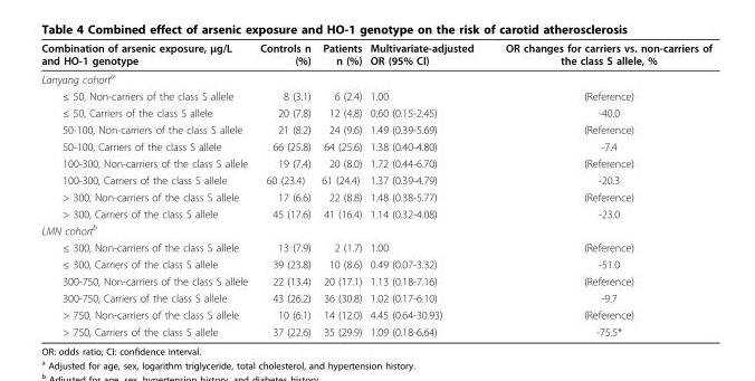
<table><thead><tr><td>Combination of arsenic exposure, μg/L and HO-1 genotype</td><td>Controls n (%)</td><td>Patients n (%)</td><td>Multivariate-adjusted OR (95% CI)</td><td>OR changes for carriers vs. non-carriers of the class S allele, %</td></tr></thead><tbody><tr><td colspan="5">Lanyang cohort<sup>a</sup></td></tr><tr><td>≤ 50, Non-carriers of the class S allele</td><td>8 (3.1)</td><td>6 (2.4)</td><td>1.00</td><td>(Reference)</td></tr><tr><td>≤ 50, Carriers of the class S allele</td><td>20 (7.8)</td><td>12 (4.8)</td><td>0.60 (0.15-2.45)</td><td>-40.0</td></tr><tr><td>50-100, Non-carriers of the class S allele</td><td>21 (8.2)</td><td>24 (9.6)</td><td>1.49 (0.39-5.69)</td><td>(Reference)</td></tr><tr><td>50-100, Carriers of the class S allele</td><td>66 (25.8)</td><td>64 (25.6)</td><td>1.38 (0.40-4.80)</td><td>-7.4</td></tr><tr><td>100-300, Non-carriers of the class S allele</td><td>19 (7.4)</td><td>20 (8.0)</td><td>1.72 (0.44-6.70)</td><td>(Reference)</td></tr><tr><td>100-300, Carriers of the class S allele</td><td>60 (23.4)</td><td>61 (24.4)</td><td>1.37 (0.39-4.79)</td><td>-20.3</td></tr><tr><td>&gt; 300, Non-carriers of the class S allele</td><td>17 (6.6)</td><td>22 (8.8)</td><td>1.48 (0.38-5.77)</td><td>(Reference)</td></tr><tr><td>&gt; 300, Carriers of the class S allele</td><td>45 (17.6)</td><td>41 (16.4)</td><td>1.14 (0.32-4.08)</td><td>-23.0</td></tr><tr><td colspan="5">LMN cohort<sup>b</sup></td></tr><tr><td>≤ 300, Non-carriers of the class S allele</td><td>13 (7.9)</td><td>2 (1.7)</td><td>1.00</td><td>(Reference)</td></tr><tr><td>≤ 300, Carriers of the class S allele</td><td>39 (23.8)</td><td>10 (8.6)</td><td>0.49 (0.07-3.32)</td><td>-51.0</td></tr><tr><td>300-750, Non-carriers of the class S allele</td><td>22 (13.4)</td><td>20 (17.1)</td><td>1.13 (0.18-7.16)</td><td>(Reference)</td></tr><tr><td>300-750, Carriers of the class S allele</td><td>43 (26.2)</td><td>36 (30.8)</td><td>1.02 (0.17-6.10)</td><td>-9.7</td></tr><tr><td>&gt; 750, Non-carriers of the class S allele</td><td>10 (6.1)</td><td>14 (12.0)</td><td>4.45 (0.64-30.93)</td><td>(Reference)</td></tr><tr><td>&gt; 750, Carriers of the class S allele</td><td>37 (22.6)</td><td>35 (29.9)</td><td>1.09 (0.18-6.64)</td><td>-75.5*</td></tr></tbody></table>